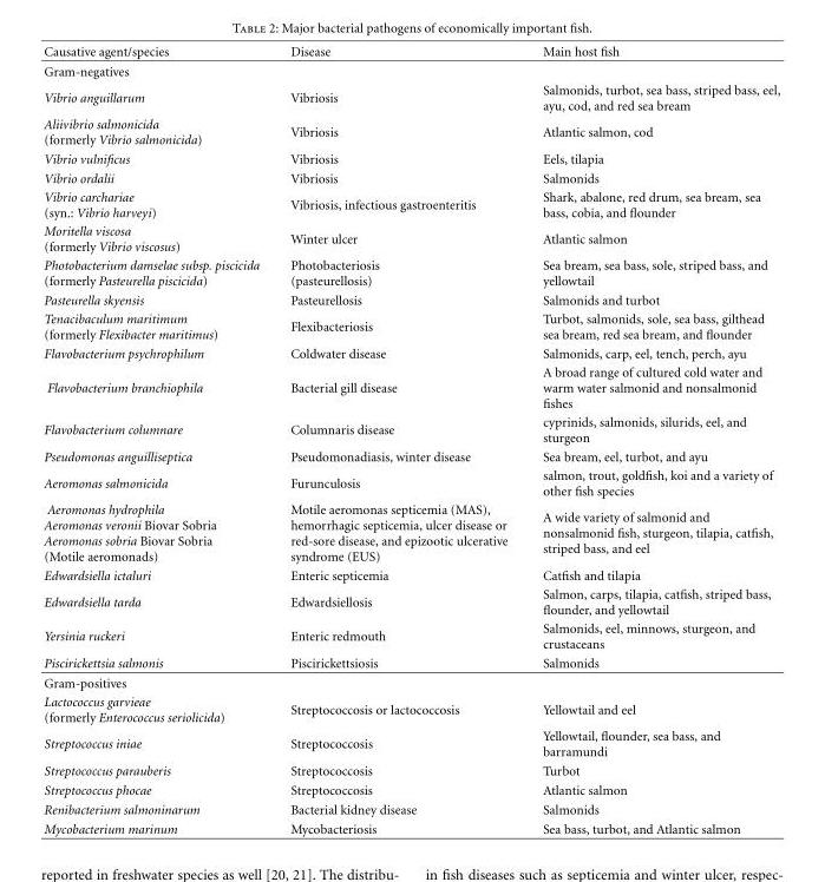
<table><thead><tr><td>Causative agent/species</td><td>Disease</td><td>Main host fish</td></tr></thead><tbody><tr><td colspan="3">Gram-negatives</td></tr><tr><td>Vibrio anguillarum</td><td>Vibriosis</td><td>Salmonids, turbot, sea bass, striped bass, eel, ayu, cod, and red sea bream</td></tr><tr><td>Aliivibrio salmonicida (formerly Vibrio salmonicida)</td><td>Vibriosis</td><td>Atlantic salmon, cod</td></tr><tr><td>Vibrio vulnificus</td><td>Vibriosis</td><td>Eels, tilapia</td></tr><tr><td>Vibrio ordalii</td><td>Vibriosis</td><td>Salmonids</td></tr><tr><td>Vibrio carchariae (syn.: Vibrio harveyi)</td><td>Vibriosis, infectious gastroenteritis</td><td>Shark, abalone, red drum, sea bream, sea bass, cobia, and flounder</td></tr><tr><td>Moritella viscosa (formerly Vibrio viscosus)</td><td>Winter ulcer</td><td>Atlantic salmon</td></tr><tr><td>Photobacterium damselae subsp. piscicida (formerly Pasteurella piscicida)</td><td>Photobacteriosis (pasteurellosis)</td><td>Sea bream, sea bass, sole, striped bass, and yellowtail</td></tr><tr><td>Pasteurella skyensis</td><td>Pasteurellosis</td><td>Salmonids and turbot</td></tr><tr><td>Tenacibaculum maritimum (formerly Flexibacter maritimus)</td><td>Flexibacteriosis</td><td>Turbot, salmonids, sole, sea bass, gilthead sea bream, red sea bream, and flounder</td></tr><tr><td>Flavobacterium psychrophilum</td><td>Coldwater disease</td><td>Salmonids, carp, eel, tench, perch, ayu</td></tr><tr><td>Flavobacterium branchiophila</td><td>Bacterial gill disease</td><td>A broad range of cultured cold water and warm water salmonid and nonsalmonid fishes</td></tr><tr><td>Flavobacterium columnare</td><td>Columnaris disease</td><td>cyprinids, salmonids, silurids, eel, and sturgeon</td></tr><tr><td>Pseudomonas anguilliseptica</td><td>Pseudomonadiasis, winter disease</td><td>Sea bream, eel, turbot, and ayu</td></tr><tr><td>Aeromonas salmonicida</td><td>Furunculosis</td><td>salmon, trout, goldfish, koi and a variety of other fish species</td></tr><tr><td>Aeromonas hydrophila Aeromonas veronii Biovar Sobria Aeromonas sobria Biovar Sobria (Motile aeromonads)</td><td>Motile aeromonas septicemia (MAS), hemorrhagic septicemia, ulcer disease or red-sore disease, and epizootic ulcerative syndrome (EUS)</td><td>A wide variety of salmonid and nonsalmonid fish, sturgeon, tilapia, catfish, striped bass, and eel</td></tr><tr><td>Edwardsiella ictaluri</td><td>Enteric septicemia</td><td>Catfish and tilapia</td></tr><tr><td>Edwardsiella tarda</td><td>Edwardsiellosis</td><td>Salmon, carps, tilapia, catfish, striped bass, flounder, and yellowtail</td></tr><tr><td>Yersinia ruckeri</td><td>Enteric redmouth</td><td>Salmonids, eel, minnows, sturgeon, and crustaceans</td></tr><tr><td>Piscirickettsia salmonis</td><td>Piscirickettsiosis</td><td>Salmonids</td></tr><tr><td colspan="3">Gram-positives</td></tr><tr><td>Lactococcus garvieae (formerly Enterococcus seriolicida)</td><td>Streptococcosis or lactococcosis</td><td>Yellowtail and eel</td></tr><tr><td>Streptococcus iniae</td><td>Streptococcosis</td><td>Yellowtail, flounder, sea bass, and barramundi</td></tr><tr><td>Streptococcus parauberis</td><td>Streptococcosis</td><td>Turbot</td></tr><tr><td>Streptococcus phocae</td><td>Streptococcosis</td><td>Atlantic salmon</td></tr><tr><td>Renibacterium salmoninarum</td><td>Bacterial kidney disease</td><td>Salmonids</td></tr><tr><td>Mycobacterium marinum</td><td>Mycobacteriosis</td><td>Sea bass, turbot, and Atlantic salmon</td></tr></tbody></table>